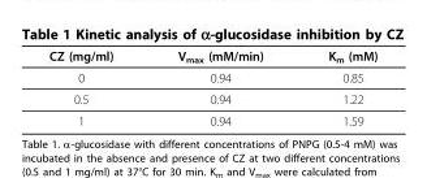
<table><thead><tr><td>CZ (mg/ml)</td><td>V<sub>max</sub> (mM/min)</td><td>K<sub>m</sub> (mM)</td></tr></thead><tbody><tr><td>0</td><td>0.94</td><td>0.85</td></tr><tr><td>0.5</td><td>0.94</td><td>1.22</td></tr><tr><td>1</td><td>0.94</td><td>1.59</td></tr></tbody></table>